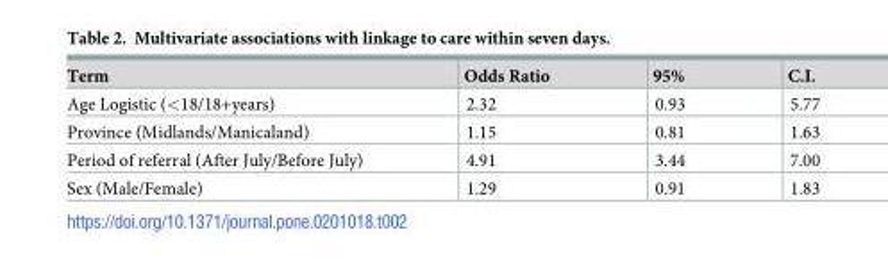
<table><thead><tr><td>Term</td><td>Odds Ratio</td><td>95%</td><td>C.I.</td></tr></thead><tbody><tr><td>Age Logistic (&lt;18/18+years)</td><td>2.32</td><td>0.93</td><td>5.77</td></tr><tr><td>Province (Midlands/Manicaland)</td><td>1.15</td><td>0.81</td><td>1.63</td></tr><tr><td>Period of referral (After July/Before July)</td><td>4.91</td><td>3.44</td><td>7.00</td></tr><tr><td>Sex (Male/Female)</td><td>1.29</td><td>0.91</td><td>1.83</td></tr></tbody></table>